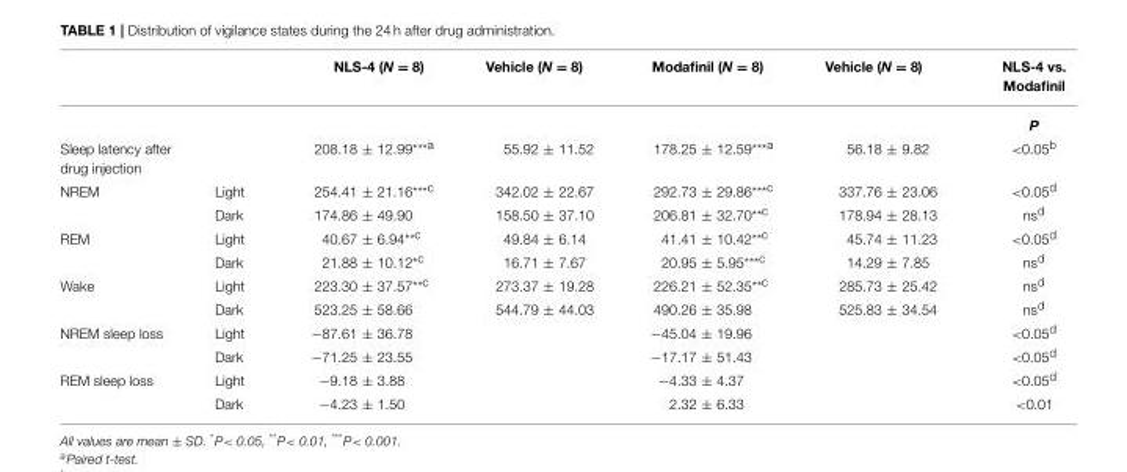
<table><thead><tr><td></td><td></td><td>NLS-4 (N = 8)</td><td>Vehicle (N = 8)</td><td>Modafinil (N = 8)</td><td>Vehicle (N = 8)</td><td>NLS-4 vs. Modafinil</td></tr></thead><tbody><tr><td></td><td></td><td></td><td></td><td></td><td></td><td>P</td></tr><tr><td>Sleep latency after drug injection</td><td></td><td>208.18 ± 12.99<sup>***a</sup></td><td>55.92 ± 11.52</td><td>178.25 ± 12.59<sup>***a</sup></td><td>56.18 ± 9.82</td><td>&lt;0.05<sup>b</sup></td></tr><tr><td rowspan="2">NREM</td><td>Light</td><td>254.41 ± 21.16<sup>***c</sup></td><td>342.02 ± 22.67</td><td>292.73 ± 29.86<sup>***c</sup></td><td>337.76 ± 23.06</td><td>&lt;0.05<sup>d</sup></td></tr><tr><td>Dark</td><td>174.86 ± 49.90</td><td>158.50 ± 37.10</td><td>206.81 ± 32.70<sup>**c</sup></td><td>178.94 ± 28.13</td><td>ns<sup>d</sup></td></tr><tr><td rowspan="2">REM</td><td>Light</td><td>40.67 ± 6.94<sup>**c</sup></td><td>49.84 ± 6.14</td><td>41.41 ± 10.42<sup>**c</sup></td><td>45.74 ± 11.23</td><td>&lt;0.05<sup>d</sup></td></tr><tr><td>Dark</td><td>21.88 ± 10.12<sup>*c</sup></td><td>16.71 ± 7.67</td><td>20.95 ± 5.95<sup>***c</sup></td><td>14.29 ± 7.85</td><td>ns<sup>d</sup></td></tr><tr><td rowspan="2">Wake</td><td>Light</td><td>223.30 ± 37.57<sup>**c</sup></td><td>273.37 ± 19.28</td><td>226.21 ± 52.35<sup>**c</sup></td><td>285.73 ± 25.42</td><td>ns<sup>d</sup></td></tr><tr><td>Dark</td><td>523.25 ± 58.66</td><td>544.79 ± 44.03</td><td>490.26 ± 35.98</td><td>525.83 ± 34.54</td><td>ns<sup>d</sup></td></tr><tr><td rowspan="2">NREM sleep loss</td><td>Light</td><td>−87.61 ± 36.78</td><td></td><td>−45.04 ± 19.96</td><td></td><td>&lt;0.05<sup>d</sup></td></tr><tr><td>Dark</td><td>−71.25 ± 23.55</td><td></td><td>−17.17 ± 51.43</td><td></td><td>&lt;0.05<sup>d</sup></td></tr><tr><td rowspan="2">REM sleep loss</td><td>Light</td><td>−9.18 ± 3.88</td><td></td><td>−4.33 ± 4.37</td><td></td><td>&lt;0.05<sup>d</sup></td></tr><tr><td>Dark</td><td>−4.23 ± 1.50</td><td></td><td>2.32 ± 6.33</td><td></td><td>&lt;0.01</td></tr></tbody></table>